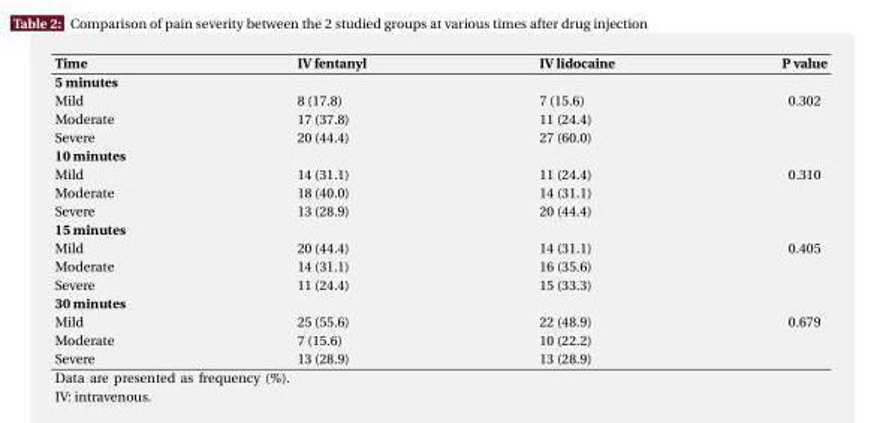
<table><thead><tr><td>Time</td><td>IV fentanyl</td><td>IV lidocaine</td><td>P value</td></tr></thead><tbody><tr><td colspan="4">5 minutes</td></tr><tr><td>Mild</td><td>8 (17.8)</td><td>7 (15.6)</td><td rowspan="3">0.302</td></tr><tr><td>Moderate</td><td>17 (37.8)</td><td>11 (24.4)</td></tr><tr><td>Severe</td><td>20 (44.4)</td><td>27 (60.0)</td></tr><tr><td colspan="4">10 minutes</td></tr><tr><td>Mild</td><td>14 (31.1)</td><td>11 (24.4)</td><td rowspan="3">0.310</td></tr><tr><td>Moderate</td><td>18 (40.0)</td><td>14 (31.1)</td></tr><tr><td>Severe</td><td>13 (28.9)</td><td>20 (44.4)</td></tr><tr><td colspan="4">15 minutes</td></tr><tr><td>Mild</td><td>20 (44.4)</td><td>14 (31.1)</td><td rowspan="3">0.405</td></tr><tr><td>Moderate</td><td>14 (31.1)</td><td>16 (35.6)</td></tr><tr><td>Severe</td><td>11 (24.4)</td><td>15 (33.3)</td></tr><tr><td colspan="4">30 minutes</td></tr><tr><td>Mild</td><td>25 (55.6)</td><td>22 (48.9)</td><td rowspan="3">0.679</td></tr><tr><td>Moderate</td><td>7 (15.6)</td><td>10 (22.2)</td></tr><tr><td>Severe</td><td>13 (28.9)</td><td>13 (28.9)</td></tr></tbody></table>